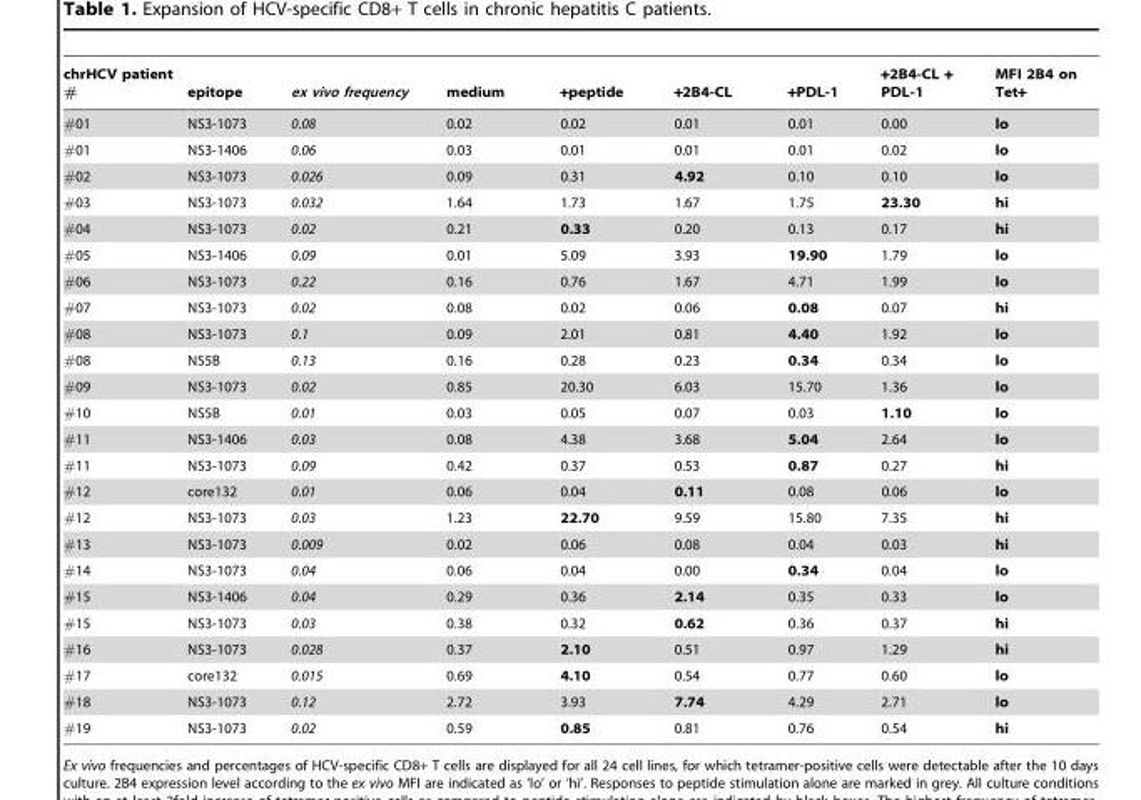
<table><thead><tr><td>chrHCV patient #</td><td>epitope</td><td>ex vivo frequency</td><td>medium</td><td>+peptide</td><td>+2B4-CL</td><td>+PDL-1</td><td>+2B4-CL + PDL-1</td><td>MFI 2B4 on Tet+</td></tr></thead><tbody><tr><td>#01</td><td>NS3-1073</td><td>0.08</td><td>0.02</td><td>0.02</td><td>0.01</td><td>0.01</td><td>0.00</td><td>lo</td></tr><tr><td>#01</td><td>NS3-1406</td><td>0.06</td><td>0.03</td><td>0.01</td><td>0.01</td><td>0.01</td><td>0.02</td><td>lo</td></tr><tr><td>#02</td><td>NS3-1073</td><td>0.026</td><td>0.09</td><td>0.31</td><td>4.92</td><td>0.10</td><td>0.10</td><td>lo</td></tr><tr><td>#03</td><td>NS3-1073</td><td>0.032</td><td>1.64</td><td>1.73</td><td>1.67</td><td>1.75</td><td>23.30</td><td>hi</td></tr><tr><td>#04</td><td>NS3-1073</td><td>0.02</td><td>0.21</td><td>0.33</td><td>0.20</td><td>0.13</td><td>0.17</td><td>hi</td></tr><tr><td>#05</td><td>NS3-1406</td><td>0.09</td><td>0.01</td><td>5.09</td><td>3.93</td><td>19.90</td><td>1.79</td><td>lo</td></tr><tr><td>#06</td><td>NS3-1073</td><td>0.22</td><td>0.16</td><td>0.76</td><td>1.67</td><td>4.71</td><td>1.99</td><td>lo</td></tr><tr><td>#07</td><td>NS3-1073</td><td>0.02</td><td>0.08</td><td>0.02</td><td>0.06</td><td>0.08</td><td>0.07</td><td>hi</td></tr><tr><td>#08</td><td>NS3-1073</td><td>0.1</td><td>0.09</td><td>2.01</td><td>0.81</td><td>4.40</td><td>1.92</td><td>lo</td></tr><tr><td>#08</td><td>NS5B</td><td>0.13</td><td>0.16</td><td>0.28</td><td>0.23</td><td>0.34</td><td>0.34</td><td>lo</td></tr><tr><td>#09</td><td>NS3-1073</td><td>0.02</td><td>0.85</td><td>20.30</td><td>6.03</td><td>15.70</td><td>1.36</td><td>lo</td></tr><tr><td>#10</td><td>NS5B</td><td>0.01</td><td>0.03</td><td>0.05</td><td>0.07</td><td>0.03</td><td>1.10</td><td>lo</td></tr><tr><td>#11</td><td>NS3-1406</td><td>0.03</td><td>0.08</td><td>4.38</td><td>3.68</td><td>5.04</td><td>2.64</td><td>lo</td></tr><tr><td>#11</td><td>NS3-1073</td><td>0.09</td><td>0.42</td><td>0.37</td><td>0.53</td><td>0.87</td><td>0.27</td><td>hi</td></tr><tr><td>#12</td><td>core132</td><td>0.01</td><td>0.06</td><td>0.04</td><td>0.11</td><td>0.08</td><td>0.06</td><td>lo</td></tr><tr><td>#12</td><td>NS3-1073</td><td>0.03</td><td>1.23</td><td>22.70</td><td>9.59</td><td>15.80</td><td>7.35</td><td>hi</td></tr><tr><td>#13</td><td>NS3-1073</td><td>0.009</td><td>0.02</td><td>0.06</td><td>0.08</td><td>0.04</td><td>0.03</td><td>hi</td></tr><tr><td>#14</td><td>NS3-1073</td><td>0.04</td><td>0.06</td><td>0.04</td><td>0.00</td><td>0.34</td><td>0.04</td><td>lo</td></tr><tr><td>#15</td><td>NS3-1406</td><td>0.04</td><td>0.29</td><td>0.36</td><td>2.14</td><td>0.35</td><td>0.33</td><td>lo</td></tr><tr><td>#15</td><td>NS3-1073</td><td>0.03</td><td>0.38</td><td>0.32</td><td>0.62</td><td>0.36</td><td>0.37</td><td>hi</td></tr><tr><td>#16</td><td>NS3-1073</td><td>0.028</td><td>0.37</td><td>2.10</td><td>0.51</td><td>0.97</td><td>1.29</td><td>hi</td></tr><tr><td>#17</td><td>core132</td><td>0.015</td><td>0.69</td><td>4.10</td><td>0.54</td><td>0.77</td><td>0.60</td><td>lo</td></tr><tr><td>#18</td><td>NS3-1073</td><td>0.12</td><td>2.72</td><td>3.93</td><td>7.74</td><td>4.29</td><td>2.71</td><td>lo</td></tr><tr><td>#19</td><td>NS3-1073</td><td>0.02</td><td>0.59</td><td>0.85</td><td>0.81</td><td>0.76</td><td>0.54</td><td>hi</td></tr></tbody></table>